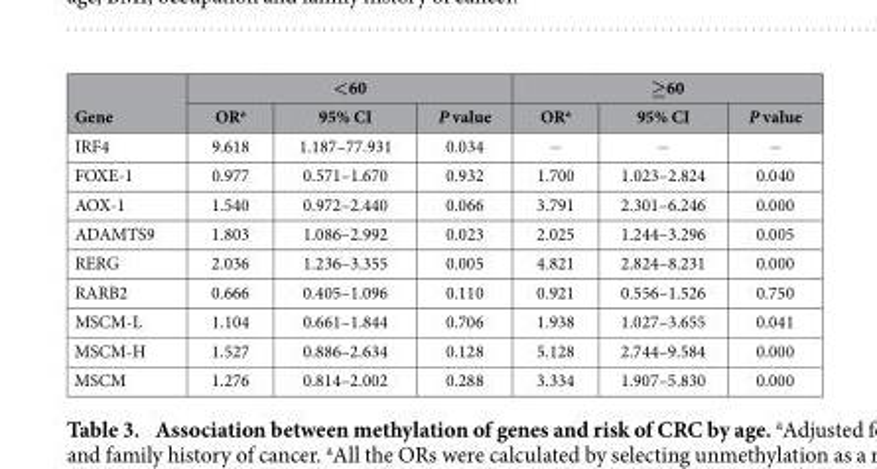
<table><thead><tr><td rowspan="2">Gene</td><td colspan="3">&lt;60</td><td colspan="3">≥60</td></tr><tr><td>OR<sup>a</sup></td><td>95% CI</td><td>P value</td><td>OR<sup>a</sup></td><td>95% CI</td><td>P value</td></tr></thead><tbody><tr><td>IRF4</td><td>9.618</td><td>1.187–77.931</td><td>0.034</td><td>−</td><td>−</td><td>−</td></tr><tr><td>FOXE-1</td><td>0.977</td><td>0.571–1.670</td><td>0.932</td><td>1.700</td><td>1.023–2.824</td><td>0.040</td></tr><tr><td>AOX-1</td><td>1.540</td><td>0.972–2.440</td><td>0.066</td><td>3.791</td><td>2.301–6.246</td><td>0.000</td></tr><tr><td>ADAMTS9</td><td>1.803</td><td>1.086–2.992</td><td>0.023</td><td>2.025</td><td>1.244–3.296</td><td>0.005</td></tr><tr><td>RERG</td><td>2.036</td><td>1.236–3.355</td><td>0.005</td><td>4.821</td><td>2.824–8.231</td><td>0.000</td></tr><tr><td>RARB2</td><td>0.666</td><td>0.405–1.096</td><td>0.110</td><td>0.921</td><td>0.556–1.526</td><td>0.750</td></tr><tr><td>MSCM-L</td><td>1.104</td><td>0.661–1.844</td><td>0.706</td><td>1.938</td><td>1.027–3.655</td><td>0.041</td></tr><tr><td>MSCM-H</td><td>1.527</td><td>0.886–2.634</td><td>0.128</td><td>5.128</td><td>2.744–9.584</td><td>0.000</td></tr><tr><td>MSCM</td><td>1.276</td><td>0.814–2.002</td><td>0.288</td><td>3.334</td><td>1.907–5.830</td><td>0.000</td></tr></tbody></table>